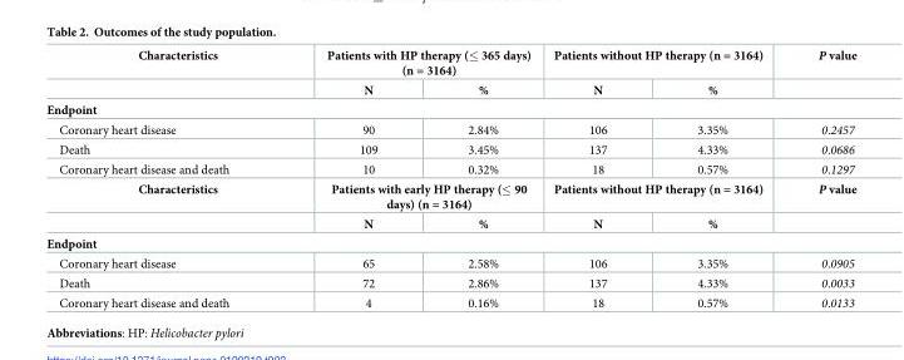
<table><tbody><tr><td rowspan="2">Characteristics</td><td colspan="2">Patients with HP therapy (≤ 365 days) (n = 3164)</td><td colspan="2">Patients without HP therapy (n = 3164)</td><td>P value</td></tr><tr><td>N</td><td>%</td><td>N</td><td>%</td><td></td></tr><tr><td colspan="6">Endpoint</td></tr><tr><td>Coronary heart disease</td><td>90</td><td>2.84%</td><td>106</td><td>3.35%</td><td>0.2457</td></tr><tr><td>Death</td><td>109</td><td>3.45%</td><td>137</td><td>4.33%</td><td>0.0686</td></tr><tr><td>Coronary heart disease and death</td><td>10</td><td>0.32%</td><td>18</td><td>0.57%</td><td>0.1297</td></tr><tr><td rowspan="2">Characteristics</td><td colspan="2">Patients with early HP therapy (≤ 90 days) (n = 3164)</td><td colspan="2">Patients without HP therapy (n = 3164)</td><td>P value</td></tr><tr><td>N</td><td>%</td><td>N</td><td>%</td><td></td></tr><tr><td colspan="6">Endpoint</td></tr><tr><td>Coronary heart disease</td><td>65</td><td>2.58%</td><td>106</td><td>3.35%</td><td>0.0905</td></tr><tr><td>Death</td><td>72</td><td>2.86%</td><td>137</td><td>4.33%</td><td>0.0033</td></tr><tr><td>Coronary heart disease and death</td><td>4</td><td>0.16%</td><td>18</td><td>0.57%</td><td>0.0133</td></tr></tbody></table>